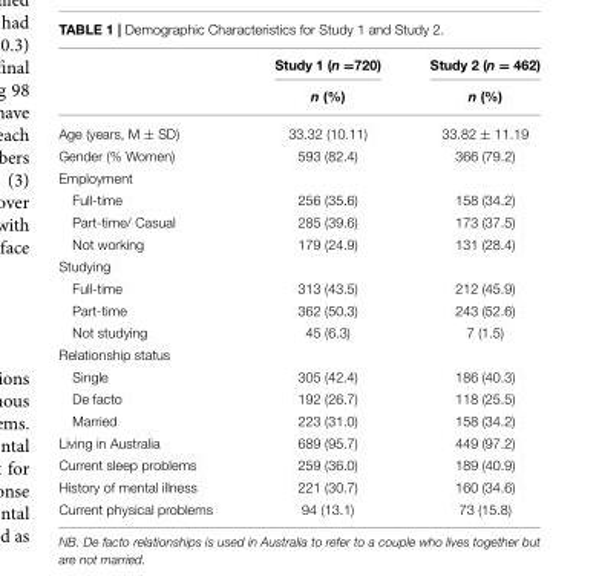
<table><thead><tr><td rowspan="2"></td><td rowspan="2">Study 1 (n =720) n (%)</td><td rowspan="2">Study 2 (n = 462) n (%)</td></tr><tr></tr></thead><tbody><tr><td>Age (years, M ± SD)</td><td>33.32 (10.11)</td><td>33.82 ± 11.19</td></tr><tr><td>Gender (% Women)</td><td>593 (82.4)</td><td>366 (79.2)</td></tr><tr><td colspan="3">Employment</td></tr><tr><td>Full-time</td><td>256 (35.6)</td><td>158 (34.2)</td></tr><tr><td>Part-time/ Casual</td><td>285 (39.6)</td><td>173 (37.5)</td></tr><tr><td>Not working</td><td>179 (24.9)</td><td>131 (28.4)</td></tr><tr><td colspan="3">Studying</td></tr><tr><td>Full-time</td><td>313 (43.5)</td><td>212 (45.9)</td></tr><tr><td>Part-time</td><td>362 (50.3)</td><td>243 (52.6)</td></tr><tr><td>Not studying</td><td>45 (6.3)</td><td>7 (1.5)</td></tr><tr><td colspan="3">Relationship status</td></tr><tr><td>Single</td><td>305 (42.4)</td><td>186 (40.3)</td></tr><tr><td>De facto</td><td>192 (26.7)</td><td>118 (25.5)</td></tr><tr><td>Married</td><td>223 (31.0)</td><td>158 (34.2)</td></tr><tr><td>Living in Australia</td><td>689 (95.7)</td><td>449 (97.2)</td></tr><tr><td>Current sleep problems</td><td>259 (36.0)</td><td>189 (40.9)</td></tr><tr><td>History of mental illness</td><td>221 (30.7)</td><td>160 (34.6)</td></tr><tr><td>Current physical problems</td><td>94 (13.1)</td><td>73 (15.8)</td></tr></tbody></table>